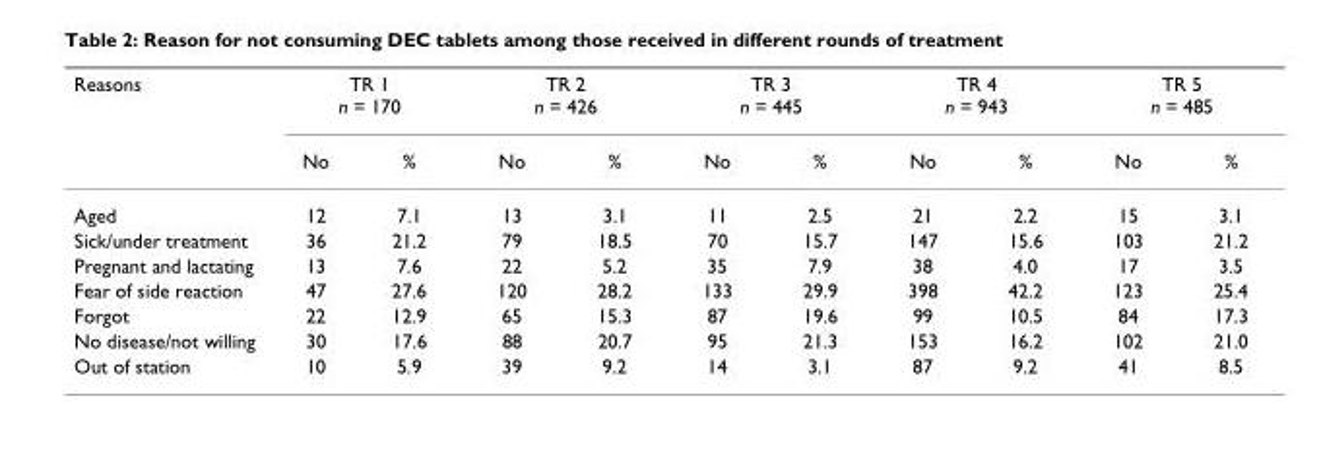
<table><thead><tr><td rowspan="2">Reasons</td><td colspan="2">TR 1 n = 170</td><td colspan="2">TR 2 n = 426</td><td colspan="2">TR 3 n = 445</td><td colspan="2">TR 4 n = 943</td><td colspan="2">TR 5 n = 485</td></tr><tr><td>No</td><td>%</td><td>No</td><td>%</td><td>No</td><td>%</td><td>No</td><td>%</td><td>No</td><td>%</td></tr></thead><tbody><tr><td>Aged</td><td>12</td><td>7.1</td><td>13</td><td>3.1</td><td>11</td><td>2.5</td><td>21</td><td>2.2</td><td>15</td><td>3.1</td></tr><tr><td>Sick/under treatment</td><td>36</td><td>21.2</td><td>79</td><td>18.5</td><td>70</td><td>15.7</td><td>147</td><td>15.6</td><td>103</td><td>21.2</td></tr><tr><td>Pregnant and lactating</td><td>13</td><td>7.6</td><td>22</td><td>5.2</td><td>35</td><td>7.9</td><td>38</td><td>4.0</td><td>17</td><td>3.5</td></tr><tr><td>Fear of side reaction</td><td>47</td><td>27.6</td><td>120</td><td>28.2</td><td>133</td><td>29.9</td><td>398</td><td>42.2</td><td>123</td><td>25.4</td></tr><tr><td>Forgot</td><td>22</td><td>12.9</td><td>65</td><td>15.3</td><td>87</td><td>19.6</td><td>99</td><td>10.5</td><td>84</td><td>17.3</td></tr><tr><td>No disease/not willing</td><td>30</td><td>17.6</td><td>88</td><td>20.7</td><td>95</td><td>21.3</td><td>153</td><td>16.2</td><td>102</td><td>21.0</td></tr><tr><td>Out of station</td><td>10</td><td>5.9</td><td>39</td><td>9.2</td><td>14</td><td>3.1</td><td>87</td><td>9.2</td><td>41</td><td>8.5</td></tr></tbody></table>